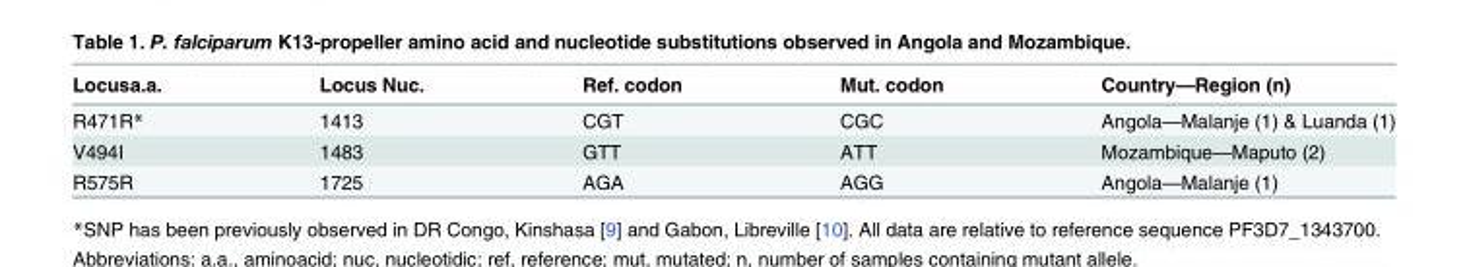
<table><thead><tr><td>Locusa.a.</td><td>Locus Nuc.</td><td>Ref. codon</td><td>Mut. codon</td><td>Country—Region (n)</td></tr></thead><tbody><tr><td>R471R*</td><td>1413</td><td>CGT</td><td>CGC</td><td>Angola—Malanje (1) &amp; Luanda (1)</td></tr><tr><td>V494I</td><td>1483</td><td>GTT</td><td>ATT</td><td>Mozambique—Maputo (2)</td></tr><tr><td>R575R</td><td>1725</td><td>AGA</td><td>AGG</td><td>Angola—Malanje (1)</td></tr></tbody></table>